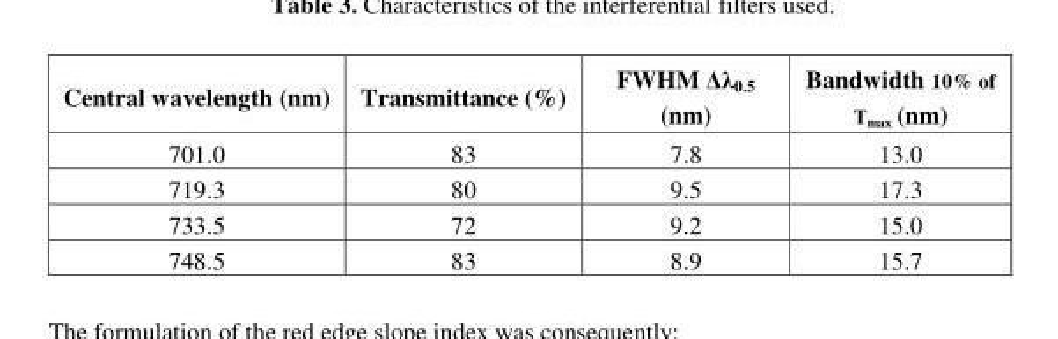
<table><tbody><tr><td>Central wavelength (nm)</td><td>Transmittance (%)</td><td>FWHM ∆λ0.5 (nm)</td><td>Bandwidth 10% of Τmax (nm)</td></tr><tr><td>701.0</td><td>83</td><td>7.8</td><td>13.0</td></tr><tr><td>719.3</td><td>80</td><td>9.5</td><td>17.3</td></tr><tr><td>733.5</td><td>72</td><td>9.2</td><td>15.0</td></tr><tr><td>748.5</td><td>83</td><td>8.9</td><td>15.7</td></tr></tbody></table>